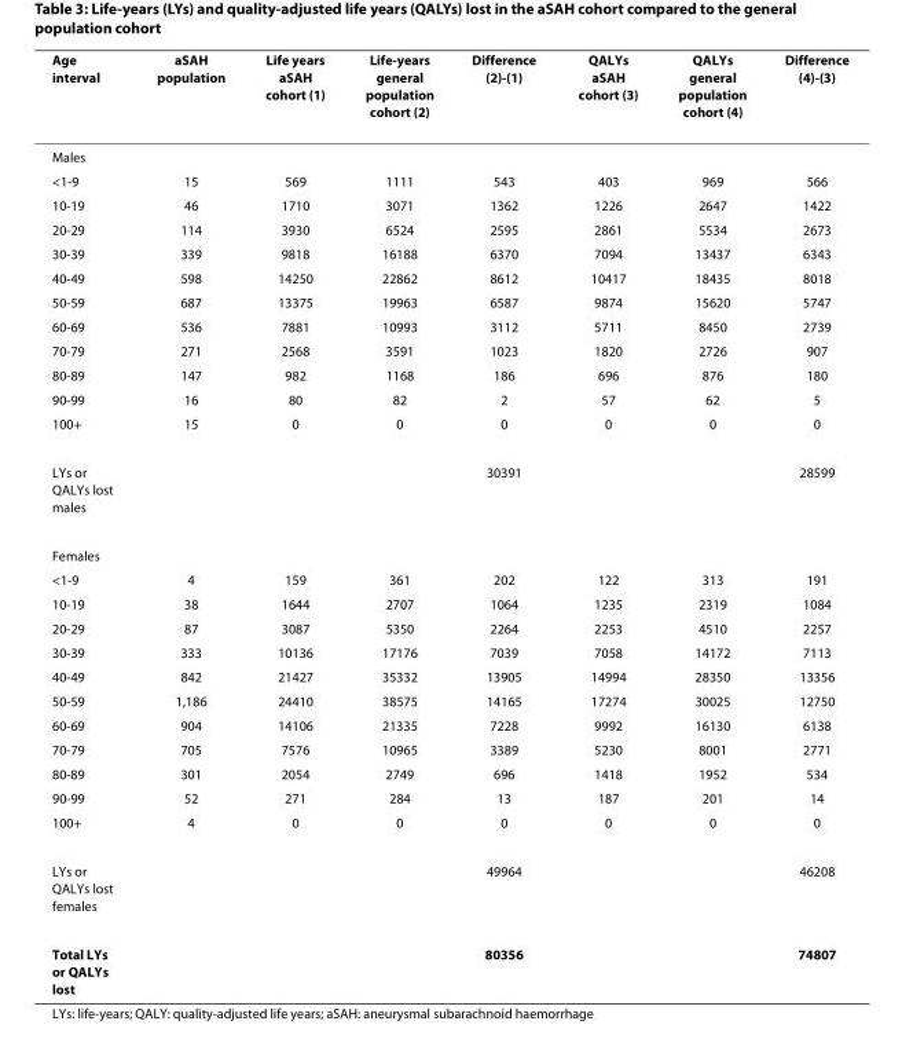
<table><thead><tr><td>Age interval</td><td>aSAH population</td><td>Life years aSAH cohort (1)</td><td>Life-years general population cohort (2)</td><td>Difference (2)-(1)</td><td>QALYs aSAH cohort (3)</td><td>QALYs general population cohort (4)</td><td>Difference (4)-(3)</td></tr></thead><tbody><tr><td colspan="8">Males</td></tr><tr><td>&lt;1-9</td><td>15</td><td>569</td><td>1111</td><td>543</td><td>403</td><td>969</td><td>566</td></tr><tr><td>10-19</td><td>46</td><td>1710</td><td>3071</td><td>1362</td><td>1226</td><td>2647</td><td>1422</td></tr><tr><td>20-29</td><td>114</td><td>3930</td><td>6524</td><td>2595</td><td>2861</td><td>5534</td><td>2673</td></tr><tr><td>30-39</td><td>339</td><td>9818</td><td>16188</td><td>6370</td><td>7094</td><td>13437</td><td>6343</td></tr><tr><td>40-49</td><td>598</td><td>14250</td><td>22862</td><td>8612</td><td>10417</td><td>18435</td><td>8018</td></tr><tr><td>50-59</td><td>687</td><td>13375</td><td>19963</td><td>6587</td><td>9874</td><td>15620</td><td>5747</td></tr><tr><td>60-69</td><td>536</td><td>7881</td><td>10993</td><td>3112</td><td>5711</td><td>8450</td><td>2739</td></tr><tr><td>70-79</td><td>271</td><td>2568</td><td>3591</td><td>1023</td><td>1820</td><td>2726</td><td>907</td></tr><tr><td>80-89</td><td>147</td><td>982</td><td>1168</td><td>186</td><td>696</td><td>876</td><td>180</td></tr><tr><td>90-99</td><td>16</td><td>80</td><td>82</td><td>2</td><td>57</td><td>62</td><td>5</td></tr><tr><td>100+</td><td>15</td><td>0</td><td>0</td><td>0</td><td>0</td><td>0</td><td>0</td></tr><tr><td>LYs or QALYs lost males</td><td></td><td></td><td></td><td>30391</td><td></td><td></td><td>28599</td></tr><tr><td colspan="8">Females</td></tr><tr><td>&lt;1-9</td><td>4</td><td>159</td><td>361</td><td>202</td><td>122</td><td>313</td><td>191</td></tr><tr><td>10-19</td><td>38</td><td>1644</td><td>2707</td><td>1064</td><td>1235</td><td>2319</td><td>1084</td></tr><tr><td>20-29</td><td>87</td><td>3087</td><td>5350</td><td>2264</td><td>2253</td><td>4510</td><td>2257</td></tr><tr><td>30-39</td><td>333</td><td>10136</td><td>17176</td><td>7039</td><td>7058</td><td>14172</td><td>7113</td></tr><tr><td>40-49</td><td>842</td><td>21427</td><td>35332</td><td>13905</td><td>14994</td><td>28350</td><td>13356</td></tr><tr><td>50-59</td><td>1,186</td><td>24410</td><td>38575</td><td>14165</td><td>17274</td><td>30025</td><td>12750</td></tr><tr><td>60-69</td><td>904</td><td>14106</td><td>21335</td><td>7228</td><td>9992</td><td>16130</td><td>6138</td></tr><tr><td>70-79</td><td>705</td><td>7576</td><td>10965</td><td>3389</td><td>5230</td><td>8001</td><td>2771</td></tr><tr><td>80-89</td><td>301</td><td>2054</td><td>2749</td><td>696</td><td>1418</td><td>1952</td><td>534</td></tr><tr><td>90-99</td><td>52</td><td>271</td><td>284</td><td>13</td><td>187</td><td>201</td><td>14</td></tr><tr><td>100+</td><td>4</td><td>0</td><td>0</td><td>0</td><td>0</td><td>0</td><td>0</td></tr><tr><td>LYs or QALYs lost females</td><td></td><td></td><td></td><td>49964</td><td></td><td></td><td>46208</td></tr><tr><td>Total LYs or QALYs lost</td><td></td><td></td><td></td><td>80356</td><td></td><td></td><td>74807</td></tr></tbody></table>